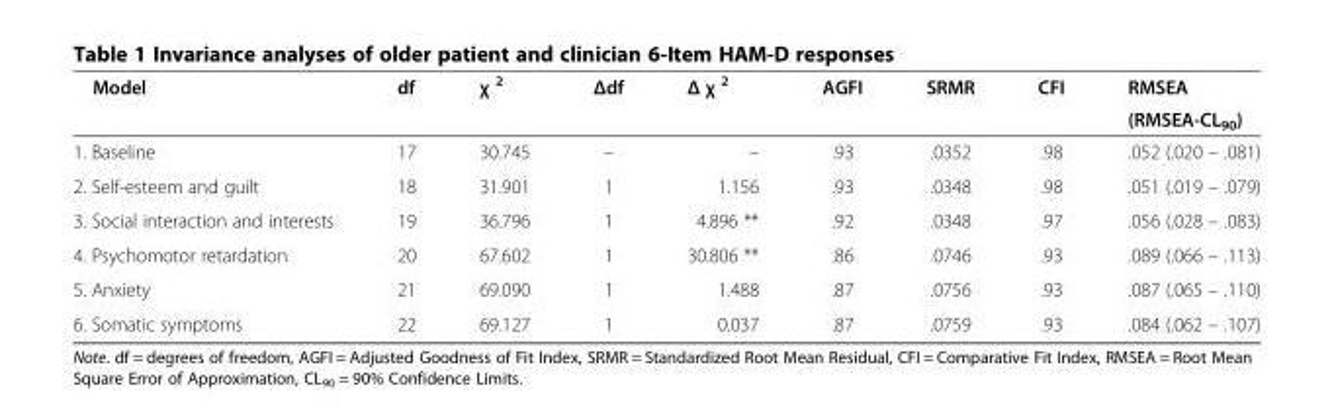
<table><thead><tr><td rowspan="2">Model</td><td rowspan="2">df</td><td rowspan="2">χ <sup>2</sup></td><td rowspan="2">Δdf</td><td rowspan="2">Δ χ <sup>2</sup></td><td rowspan="2">AGFI</td><td rowspan="2">SRMR</td><td rowspan="2">CFI</td><td rowspan="2">RMSEA (RMSEA-CL<sub>90</sub>)</td></tr><tr></tr></thead><tbody><tr><td>1. Baseline</td><td>17</td><td>30.745</td><td>–</td><td>–</td><td>.93</td><td>.0352</td><td>.98</td><td>.052 (.020 – .081)</td></tr><tr><td>2. Self-esteem and guilt</td><td>18</td><td>31.901</td><td>1</td><td>1.156</td><td>.93</td><td>.0348</td><td>.98</td><td>.051 (.019 – .079)</td></tr><tr><td>3. Social interaction and interests</td><td>19</td><td>36.796</td><td>1</td><td>4.896 **</td><td>.92</td><td>.0348</td><td>.97</td><td>.056 (.028 – .083)</td></tr><tr><td>4. Psychomotor retardation</td><td>20</td><td>67.602</td><td>1</td><td>30.806 **</td><td>.86</td><td>.0746</td><td>.93</td><td>.089 (.066 – .113)</td></tr><tr><td>5. Anxiety</td><td>21</td><td>69.090</td><td>1</td><td>1.488</td><td>.87</td><td>.0756</td><td>.93</td><td>.087 (.065 – .110)</td></tr><tr><td>6. Somatic symptoms</td><td>22</td><td>69.127</td><td>1</td><td>0.037</td><td>.87</td><td>.0759</td><td>.93</td><td>.084 (.062 – .107)</td></tr></tbody></table>